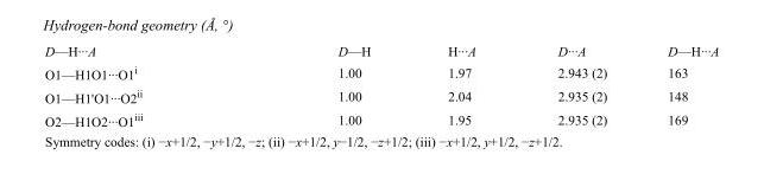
<table><tbody><tr><td>D—H···A</td><td>D—H</td><td>H···A</td><td>D···A</td><td>D—H···A</td></tr><tr><td>O1—H1O1···O1<sup>i</sup></td><td>1.00</td><td>1.97</td><td>2.943 (2)</td><td>163</td></tr><tr><td>O1—H1&#x27;O1···O2<sup>ii</sup></td><td>1.00</td><td>2.04</td><td>2.935 (2)</td><td>148</td></tr><tr><td>O2—H1O2···O1<sup>iii</sup></td><td>1.00</td><td>1.95</td><td>2.935 (2)</td><td>169</td></tr></tbody></table>